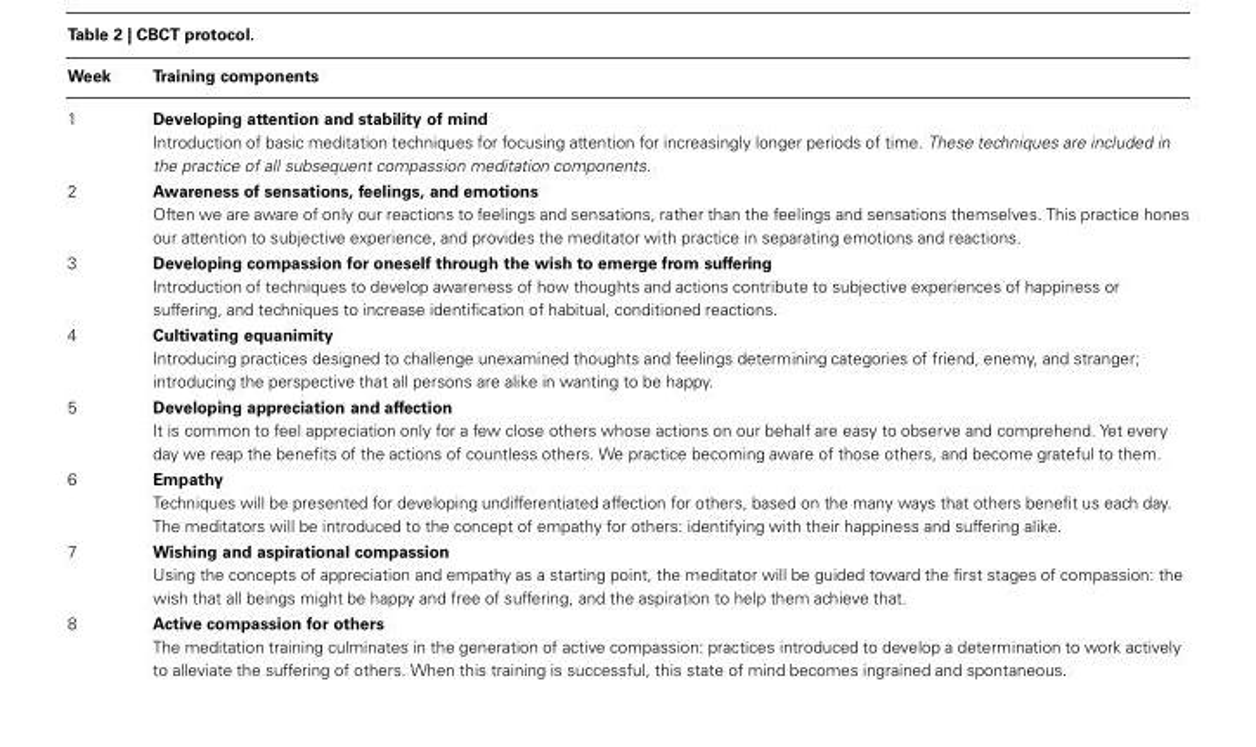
<table><thead><tr><td>Week</td><td>Training components</td></tr></thead><tbody><tr><td rowspan="2">1</td><td>Developing attention and stability of mind</td></tr><tr><td>Introduction of basic meditation techniques for focusing attention for increasingly longer periods of time. These techniques are included in the practice of all subsequent compassion meditation components.</td></tr><tr><td rowspan="2">2</td><td>Awareness of sensations, feelings, and emotions</td></tr><tr><td>Often we are aware of only our reactions to feelings and sensations, rather than the feelings and sensations themselves. This practice hones our attention to subjective experience, and provides the meditator with practice in separating emotions and reactions.</td></tr><tr><td rowspan="2">3</td><td>Developing compassion for oneself through the wish to emerge from suffering</td></tr><tr><td>Introduction of techniques to develop awareness of how thoughts and actions contribute to subjective experiences of happiness or suffering, and techniques to increase identification of habitual, conditioned reactions.</td></tr><tr><td rowspan="2">4</td><td>Cultivating equanimity</td></tr><tr><td>Introducing practices designed to challenge unexamined thoughts and feelings determining categories of friend, enemy, and stranger; introducing the perspective that all persons are alike in wanting to be happy.</td></tr><tr><td rowspan="2">5</td><td>Developing appreciation and affection</td></tr><tr><td>It is common to feel appreciation only for a few close others whose actions on our behalf are easy to observe and comprehend. Yet every day we reap the benefits of the actions of countless others. We practice becoming aware of those others, and become grateful to them.</td></tr><tr><td rowspan="2">6</td><td>Empathy</td></tr><tr><td>Techniques will be presented for developing undifferentiated affection for others, based on the many ways that others benefit us each day. The meditators will be introduced to the concept of empathy for others: identifying with their happiness and suffering alike.</td></tr><tr><td rowspan="2">7</td><td>Wishing and aspirational compassion</td></tr><tr><td>Using the concepts of appreciation and empathy as a starting point, the meditator will be guided toward the first stages of compassion: the wish that all beings might be happy and free of suffering, and the aspiration to help them achieve that.</td></tr><tr><td rowspan="2">8</td><td>Active compassion for others</td></tr><tr><td>The meditation training culminates in the generation of active compassion: practices introduced to develop a determination to work actively to alleviate the suffering of others. When this training is successful, this state of mind becomes ingrained and spontaneous.</td></tr></tbody></table>